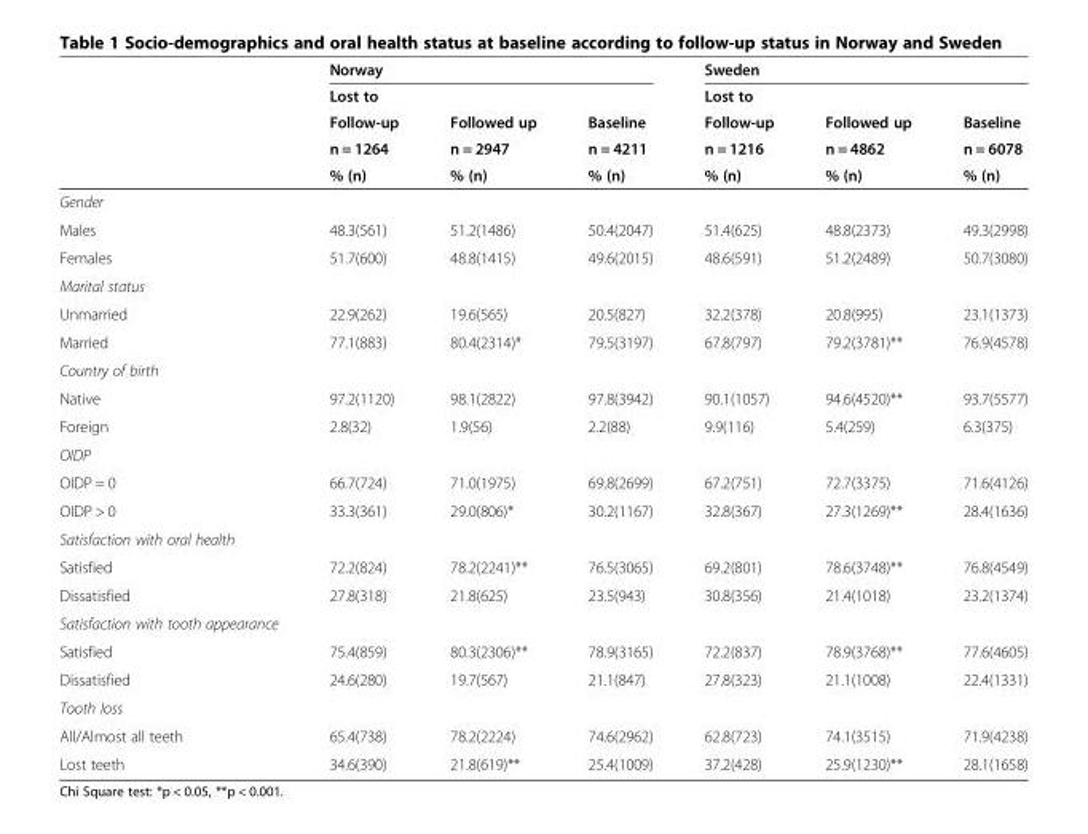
<table><thead><tr><td rowspan="5"></td><td rowspan="2" colspan="3">Norway Lost to</td><td rowspan="2" colspan="3">Sweden Lost to</td></tr><tr></tr><tr><td rowspan="3">Follow-up n = 1264 % (n)</td><td rowspan="3">Followed up n = 2947 % (n)</td><td rowspan="3">Baseline n = 4211 % (n)</td><td rowspan="3">Follow-up n = 1216 % (n)</td><td rowspan="3">Followed up n = 4862 % (n)</td><td rowspan="3">Baseline n = 6078 % (n)</td></tr><tr></tr><tr></tr></thead><tbody><tr><td colspan="7">Gender</td></tr><tr><td>Males</td><td>48.3(561)</td><td>51.2(1486)</td><td>50.4(2047)</td><td>51.4(625)</td><td>48.8(2373)</td><td>49.3(2998)</td></tr><tr><td>Females</td><td>51.7(600)</td><td>48.8(1415)</td><td>49.6(2015)</td><td>48.6(591)</td><td>51.2(2489)</td><td>50.7(3080)</td></tr><tr><td colspan="7">Marital status</td></tr><tr><td>Unmarried</td><td>22.9(262)</td><td>19.6(565)</td><td>20.5(827)</td><td>32.2(378)</td><td>20.8(995)</td><td>23.1(1373)</td></tr><tr><td>Married</td><td>77.1(883)</td><td>80.4(2314)*</td><td>79.5(3197)</td><td>67.8(797)</td><td>79.2(3781)**</td><td>76.9(4578)</td></tr><tr><td colspan="7">Country of birth</td></tr><tr><td>Native</td><td>97.2(1120)</td><td>98.1(2822)</td><td>97.8(3942)</td><td>90.1(1057)</td><td>94.6(4520)**</td><td>93.7(5577)</td></tr><tr><td>Foreign</td><td>2.8(32)</td><td>1.9(56)</td><td>2.2(88)</td><td>9.9(116)</td><td>5.4(259)</td><td>6.3(375)</td></tr><tr><td colspan="7">OIDP</td></tr><tr><td>OIDP = 0</td><td>66.7(724)</td><td>71.0(1975)</td><td>69.8(2699)</td><td>67.2(751)</td><td>72.7(3375)</td><td>71.6(4126)</td></tr><tr><td>OIDP &gt; 0</td><td>33.3(361)</td><td>29.0(806)*</td><td>30.2(1167)</td><td>32.8(367)</td><td>27.3(1269)**</td><td>28.4(1636)</td></tr><tr><td colspan="7">Satisfaction with oral health</td></tr><tr><td>Satisfied</td><td>72.2(824)</td><td>78.2(2241)**</td><td>76.5(3065)</td><td>69.2(801)</td><td>78.6(3748)**</td><td>76.8(4549)</td></tr><tr><td>Dissatisfied</td><td>27.8(318)</td><td>21.8(625)</td><td>23.5(943)</td><td>30.8(356)</td><td>21.4(1018)</td><td>23.2(1374)</td></tr><tr><td colspan="7">Satisfaction with tooth appearance</td></tr><tr><td>Satisfied</td><td>75.4(859)</td><td>80.3(2306)**</td><td>78.9(3165)</td><td>72.2(837)</td><td>78.9(3768)**</td><td>77.6(4605)</td></tr><tr><td>Dissatisfied</td><td>24.6(280)</td><td>19.7(567)</td><td>21.1(847)</td><td>27.8(323)</td><td>21.1(1008)</td><td>22.4(1331)</td></tr><tr><td colspan="7">Tooth loss</td></tr><tr><td>All/Almost all teeth</td><td>65.4(738)</td><td>78.2(2224)</td><td>74.6(2962)</td><td>62.8(723)</td><td>74.1(3515)</td><td>71.9(4238)</td></tr><tr><td>Lost teeth</td><td>34.6(390)</td><td>21.8(619)**</td><td>25.4(1009)</td><td>37.2(428)</td><td>25.9(1230)**</td><td>28.1(1658)</td></tr></tbody></table>